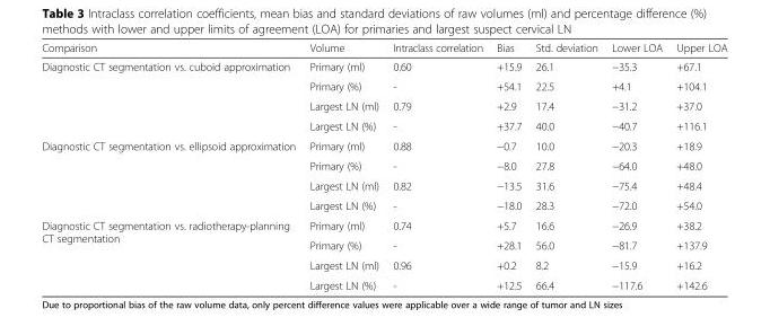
<table><thead><tr><td>Comparison</td><td>Volume</td><td>Intraclass correlation</td><td>Bias</td><td>Std. deviation</td><td>Lower LOA</td><td>Upper LOA</td></tr></thead><tbody><tr><td rowspan="4">Diagnostic CT segmentation vs. cuboid approximation</td><td>Primary (ml)</td><td>0.60</td><td>+15.9</td><td>26.1</td><td>−35.3</td><td>+67.1</td></tr><tr><td>Primary (%)</td><td>-</td><td>+54.1</td><td>22.5</td><td>+4.1</td><td>+104.1</td></tr><tr><td>Largest LN (ml)</td><td>0.79</td><td>+2.9</td><td>17.4</td><td>−31.2</td><td>+37.0</td></tr><tr><td>Largest LN (%)</td><td>-</td><td>+37.7</td><td>40.0</td><td>−40.7</td><td>+116.1</td></tr><tr><td rowspan="4">Diagnostic CT segmentation vs. ellipsoid approximation</td><td>Primary (ml)</td><td>0.88</td><td>−0.7</td><td>10.0</td><td>−20.3</td><td>+18.9</td></tr><tr><td>Primary (%)</td><td>-</td><td>−8.0</td><td>27.8</td><td>−64.0</td><td>+48.0</td></tr><tr><td>Largest LN (ml)</td><td>0.82</td><td>−13.5</td><td>31.6</td><td>−75.4</td><td>+48.4</td></tr><tr><td>Largest LN (%)</td><td>-</td><td>−18.0</td><td>28.3</td><td>−72.0</td><td>+54.0</td></tr><tr><td rowspan="4">Diagnostic CT segmentation vs. radiotherapy-planning CT segmentation</td><td>Primary (ml)</td><td>0.74</td><td>+5.7</td><td>16.6</td><td>−26.9</td><td>+38.2</td></tr><tr><td>Primary (%)</td><td>-</td><td>+28.1</td><td>56.0</td><td>−81.7</td><td>+137.9</td></tr><tr><td>Largest LN (ml)</td><td>0.96</td><td>+0.2</td><td>8.2</td><td>−15.9</td><td>+16.2</td></tr><tr><td>Largest LN (%)</td><td>-</td><td>+12.5</td><td>66.4</td><td>−117.6</td><td>+142.6</td></tr></tbody></table>